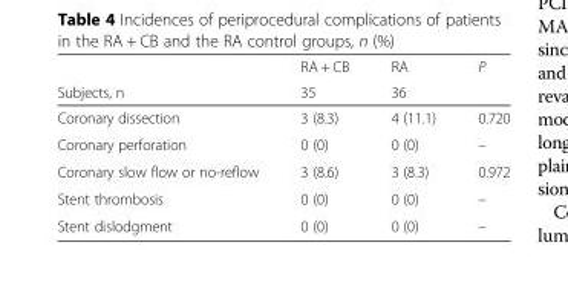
<table><thead><tr><td rowspan="2">Subjects, n</td><td rowspan="2">RA + CB 35</td><td rowspan="2">RA 36</td><td rowspan="2">P</td></tr><tr></tr></thead><tbody><tr><td>Coronary dissection</td><td>3 (8.3)</td><td>4 (11.1)</td><td>0.720</td></tr><tr><td>Coronary perforation</td><td>0 (0)</td><td>0 (0)</td><td>–</td></tr><tr><td>Coronary slow flow or no-reflow</td><td>3 (8.6)</td><td>3 (8.3)</td><td>0.972</td></tr><tr><td>Stent thrombosis</td><td>0 (0)</td><td>0 (0)</td><td>–</td></tr><tr><td>Stent dislodgment</td><td>0 (0)</td><td>0 (0)</td><td>–</td></tr></tbody></table>